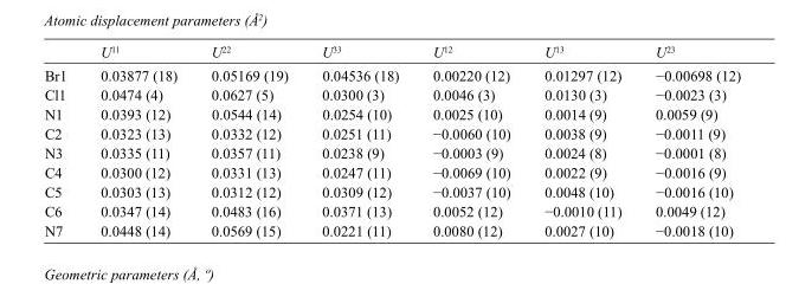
<table><thead><tr><td></td><td>U<sup>11</sup></td><td>U<sup>22</sup></td><td>U<sup>33</sup></td><td>U<sup>12</sup></td><td>U<sup>13</sup></td><td>U<sup>23</sup></td></tr></thead><tbody><tr><td>Br1</td><td>0.03877 (18)</td><td>0.05169 (19)</td><td>0.04536 (18)</td><td>0.00220 (12)</td><td>0.01297 (12)</td><td>−0.00698 (12)</td></tr><tr><td>Cl1</td><td>0.0474 (4)</td><td>0.0627 (5)</td><td>0.0300 (3)</td><td>0.0046 (3)</td><td>0.0130 (3)</td><td>−0.0023 (3)</td></tr><tr><td>N1</td><td>0.0393 (12)</td><td>0.0544 (14)</td><td>0.0254 (10)</td><td>0.0025 (10)</td><td>0.0014 (9)</td><td>0.0059 (9)</td></tr><tr><td>C2</td><td>0.0323 (13)</td><td>0.0332 (12)</td><td>0.0251 (11)</td><td>−0.0060 (10)</td><td>0.0038 (9)</td><td>−0.0011 (9)</td></tr><tr><td>N3</td><td>0.0335 (11)</td><td>0.0357 (11)</td><td>0.0238 (9)</td><td>−0.0003 (9)</td><td>0.0024 (8)</td><td>−0.0001 (8)</td></tr><tr><td>C4</td><td>0.0300 (12)</td><td>0.0331 (13)</td><td>0.0247 (11)</td><td>−0.0069 (10)</td><td>0.0022 (9)</td><td>−0.0016 (9)</td></tr><tr><td>C5</td><td>0.0303 (13)</td><td>0.0312 (12)</td><td>0.0309 (12)</td><td>−0.0037 (10)</td><td>0.0048 (10)</td><td>−0.0016 (10)</td></tr><tr><td>C6</td><td>0.0347 (14)</td><td>0.0483 (16)</td><td>0.0371 (13)</td><td>0.0052 (12)</td><td>−0.0010 (11)</td><td>0.0049 (12)</td></tr><tr><td>N7</td><td>0.0448 (14)</td><td>0.0569 (15)</td><td>0.0221 (11)</td><td>0.0080 (12)</td><td>0.0027 (10)</td><td>−0.0018 (10)</td></tr></tbody></table>